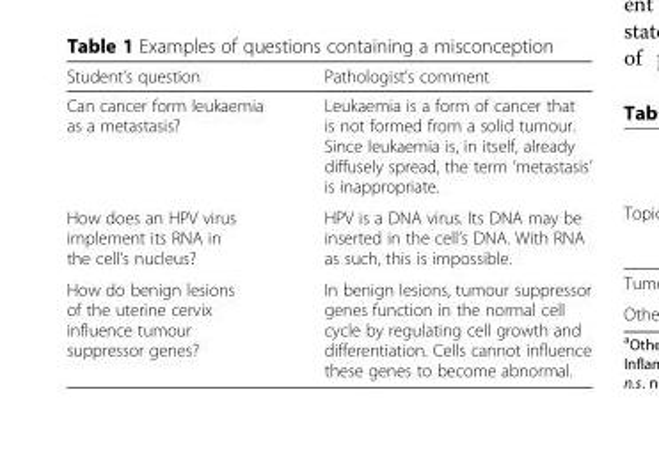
<table><thead><tr><td>Student’s question</td><td>Pathologist’s comment</td></tr></thead><tbody><tr><td>Can cancer form leukaemia as a metastasis?</td><td>Leukaemia is a form of cancer that is not formed from a solid tumour. Since leukaemia is, in itself, already diffusely spread, the term ‘metastasis’ is inappropriate.</td></tr><tr><td>How does an HPV virus implement its RNA in the cell’s nucleus?</td><td>HPV is a DNA virus. Its DNA may be inserted in the cell’s DNA. With RNA as such, this is impossible.</td></tr><tr><td>How do benign lesions of the uterine cervix influence tumour suppressor genes?</td><td>In benign lesions, tumour suppressor genes function in the normal cell cycle by regulating cell growth and differentiation. Cells cannot influence these genes to become abnormal.</td></tr></tbody></table>